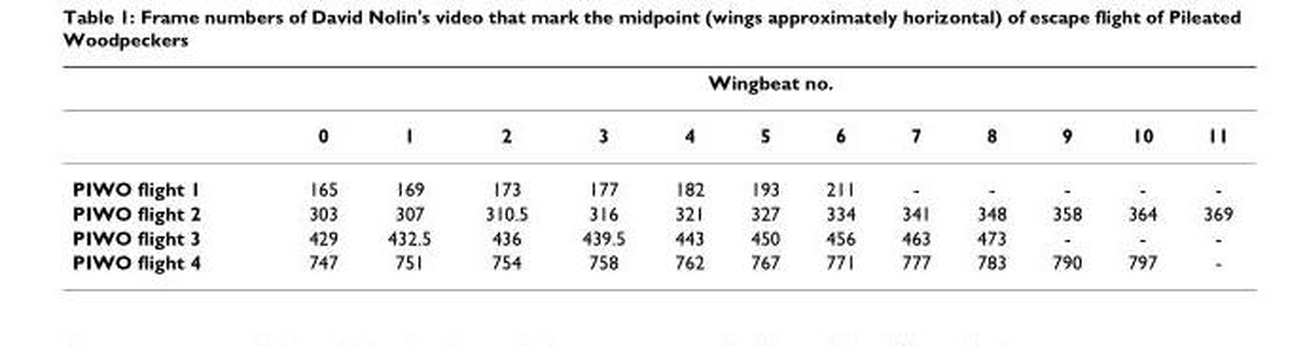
<table><thead><tr><td rowspan="2"></td><td colspan="12">Wingbeat no.</td></tr><tr><td>0</td><td>1</td><td>2</td><td>3</td><td>4</td><td>5</td><td>6</td><td>7</td><td>8</td><td>9</td><td>10</td><td>11</td></tr></thead><tbody><tr><td>PIWO flight 1</td><td>165</td><td>169</td><td>173</td><td>177</td><td>182</td><td>193</td><td>211</td><td>-</td><td>-</td><td>-</td><td>-</td><td>-</td></tr><tr><td>PIWO flight 2</td><td>303</td><td>307</td><td>310.5</td><td>316</td><td>321</td><td>327</td><td>334</td><td>341</td><td>348</td><td>358</td><td>364</td><td>369</td></tr><tr><td>PIWO flight 3</td><td>429</td><td>432.5</td><td>436</td><td>439.5</td><td>443</td><td>450</td><td>456</td><td>463</td><td>473</td><td>-</td><td>-</td><td>-</td></tr><tr><td>PIWO flight 4</td><td>747</td><td>751</td><td>754</td><td>758</td><td>762</td><td>767</td><td>771</td><td>777</td><td>783</td><td>790</td><td>797</td><td>-</td></tr></tbody></table>